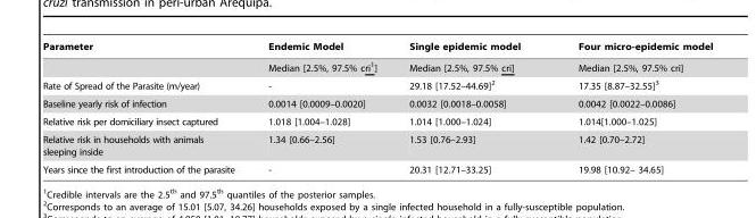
<table><thead><tr><td>Parameter</td><td>Endemic Model</td><td>Single epidemic model</td><td>Four micro-epidemic model</td></tr></thead><tbody><tr><td></td><td>Median [2.5%, 97.5% cri1]</td><td>Median [2.5%, 97.5% cri]</td><td>Median [2.5%, 97.5% cri]</td></tr><tr><td>Rate of Spread of the Parasite (m/year)</td><td>-</td><td>29.18 [17.52–44.69]<sup>2</sup></td><td>17.35 [8.87–32.55]<sup>3</sup></td></tr><tr><td>Baseline yearly risk of infection</td><td>0.0014 [0.0009–0.0020]</td><td>0.0032 [0.0018–0.0058]</td><td>0.0042 [0.0022–0.0086]</td></tr><tr><td>Relative risk per domiciliary insect captured</td><td>1.018 [1.004–1.028]</td><td>1.014 [1.000–1.024]</td><td>1.014[1.000–1.025]</td></tr><tr><td>Relative risk in households with animals sleeping inside</td><td>1.34 [0.66–2.56]</td><td>1.53 [0.76–2.93]</td><td>1.42 [0.70–2.72]</td></tr><tr><td>Years since the first introduction of the parasite</td><td>-</td><td>20.31 [12.71–33.25]</td><td>19.98 [10.92– 34.65]</td></tr></tbody></table>